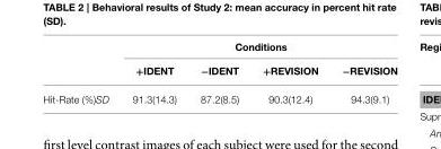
<table><thead><tr><td rowspan="2"></td><td colspan="4">Conditions</td></tr><tr><td>+IDENT</td><td>−IDENT</td><td>+REVISION</td><td>−REVISION</td></tr></thead><tbody><tr><td>Hit-Rate (%)SD</td><td>91.3(14.3)</td><td>87.2(8.5)</td><td>90.3(12.4)</td><td>94.3(9.1)</td></tr></tbody></table>